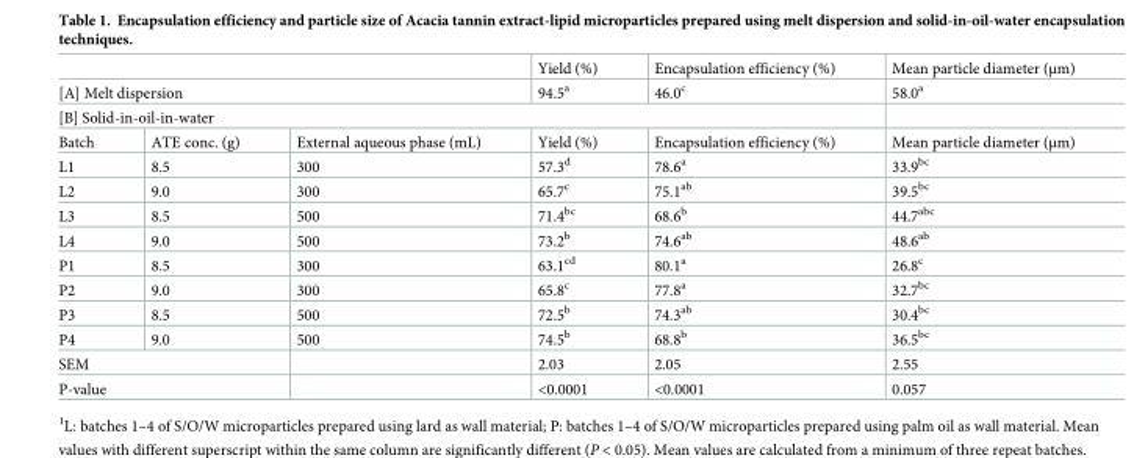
<table><thead><tr><td></td><td></td><td></td><td>Yield (%)</td><td>Encapsulation efficiency (%)</td><td>Mean particle diameter (μm)</td></tr></thead><tbody><tr><td colspan="3">[A] Melt dispersion</td><td>94.5<sup>a</sup></td><td>46.0<sup>c</sup></td><td>58.0<sup>a</sup></td></tr><tr><td colspan="6">[B] Solid-in-oil-in-water</td></tr><tr><td>Batch</td><td>ATE conc. (g)</td><td>External aqueous phase (mL)</td><td>Yield (%)</td><td>Encapsulation efficiency (%)</td><td>Mean particle diameter (μm)</td></tr><tr><td>L1</td><td>8.5</td><td>300</td><td>57.3<sup>d</sup></td><td>78.6<sup>a</sup></td><td>33.9<sup>bc</sup></td></tr><tr><td>L2</td><td>9.0</td><td>300</td><td>65.7<sup>c</sup></td><td>75.1<sup>ab</sup></td><td>39.5<sup>bc</sup></td></tr><tr><td>L3</td><td>8.5</td><td>500</td><td>71.4<sup>bc</sup></td><td>68.6<sup>b</sup></td><td>44.7<sup>abc</sup></td></tr><tr><td>L4</td><td>9.0</td><td>500</td><td>73.2<sup>b</sup></td><td>74.6<sup>ab</sup></td><td>48.6<sup>ab</sup></td></tr><tr><td>P1</td><td>8.5</td><td>300</td><td>63.1<sup>cd</sup></td><td>80.1<sup>a</sup></td><td>26.8<sup>c</sup></td></tr><tr><td>P2</td><td>9.0</td><td>300</td><td>65.8<sup>c</sup></td><td>77.8<sup>a</sup></td><td>32.7<sup>bc</sup></td></tr><tr><td>P3</td><td>8.5</td><td>500</td><td>72.5<sup>b</sup></td><td>74.3<sup>ab</sup></td><td>30.4<sup>bc</sup></td></tr><tr><td>P4</td><td>9.0</td><td>500</td><td>74.5<sup>b</sup></td><td>68.8<sup>b</sup></td><td>36.5<sup>bc</sup></td></tr><tr><td colspan="2">SEM</td><td></td><td>2.03</td><td>2.05</td><td>2.55</td></tr><tr><td colspan="2">P-value</td><td></td><td>&lt;0.0001</td><td>&lt;0.0001</td><td>0.057</td></tr></tbody></table>